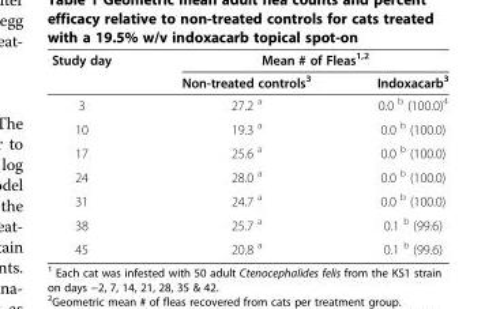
<table><thead><tr><td rowspan="2">Study day</td><td colspan="2">Mean # of Fleas<sup>1,2</sup></td></tr><tr><td>Non-treated controls<sup>3</sup></td><td>Indoxacarb<sup>3</sup></td></tr></thead><tbody><tr><td>3</td><td>27.2 <sup>a</sup></td><td>0.0 <sup>b</sup> (100.0)<sup>4</sup></td></tr><tr><td>10</td><td>19.3 <sup>a</sup></td><td>0.0 <sup>b</sup> (100.0)</td></tr><tr><td>17</td><td>25.6 <sup>a</sup></td><td>0.0 <sup>b</sup> (100.0)</td></tr><tr><td>24</td><td>28.0 <sup>a</sup></td><td>0.0 <sup>b</sup> (100.0)</td></tr><tr><td>31</td><td>24.7 <sup>a</sup></td><td>0.0 <sup>b</sup> (100.0)</td></tr><tr><td>38</td><td>25.7 <sup>a</sup></td><td>0.1 <sup>b</sup> (99.6)</td></tr><tr><td>45</td><td>20.8 <sup>a</sup></td><td>0.1 <sup>b</sup> (99.6)</td></tr></tbody></table>